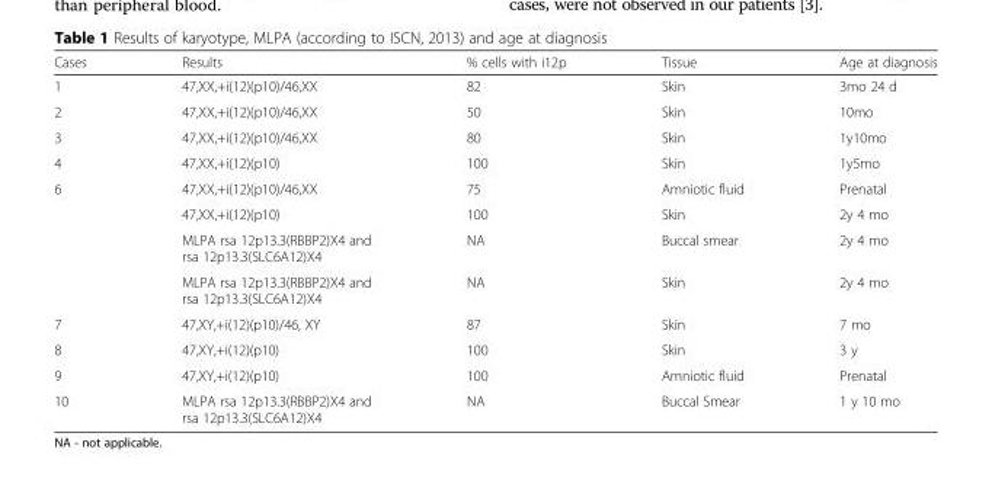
<table><thead><tr><td>Cases</td><td>Results</td><td>% cells with i12p</td><td>Tissue</td><td>Age at diagnosis</td></tr></thead><tbody><tr><td>1</td><td>47,XX,+i(12)(p10)/46,XX</td><td>82</td><td>Skin</td><td>3mo 24 d</td></tr><tr><td>2</td><td>47,XX,+i(12)(p10)/46,XX</td><td>50</td><td>Skin</td><td>10mo</td></tr><tr><td>3</td><td>47,XX,+i(12)(p10)/46,XX</td><td>80</td><td>Skin</td><td>1y10mo</td></tr><tr><td>4</td><td>47,XX,+i(12)(p10)</td><td>100</td><td>Skin</td><td>1y5mo</td></tr><tr><td rowspan="4">6</td><td>47,XX,+i(12)(p10)/46,XX</td><td>75</td><td>Amniotic fluid</td><td>Prenatal</td></tr><tr><td>47,XX,+i(12)(p10)</td><td>100</td><td>Skin</td><td>2y 4 mo</td></tr><tr><td>MLPA rsa 12p13.3(RBBP2)X4 and rsa 12p13.3(SLC6A12)X4</td><td>NA</td><td>Buccal smear</td><td>2y 4 mo</td></tr><tr><td>MLPA rsa 12p13.3(RBBP2)X4 and rsa 12p13.3(SLC6A12)X4</td><td>NA</td><td>Skin</td><td>2y 4 mo</td></tr><tr><td>7</td><td>47,XY,+i(12)(p10)/46, XY</td><td>87</td><td>Skin</td><td>7 mo</td></tr><tr><td>8</td><td>47,XY,+i(12)(p10)</td><td>100</td><td>Skin</td><td>3 y</td></tr><tr><td>9</td><td>47,XY,+i(12)(p10)</td><td>100</td><td>Amniotic fluid</td><td>Prenatal</td></tr><tr><td>10</td><td>MLPA rsa 12p13.3(RBBP2)X4 and rsa 12p13.3(SLC6A12)X4</td><td>NA</td><td>Buccal Smear</td><td>1 y 10 mo</td></tr></tbody></table>